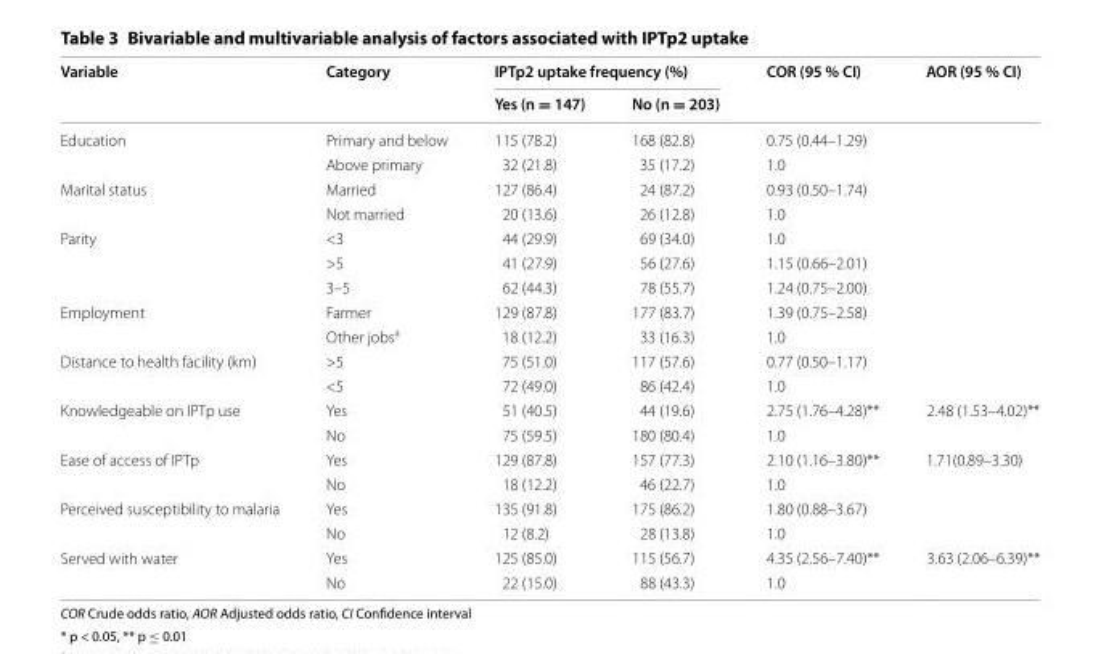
<table><thead><tr><td rowspan="2">Variable</td><td rowspan="2">Category</td><td colspan="2">IPTp2 uptake frequency (%)</td><td rowspan="2">COR (95 % CI)</td><td rowspan="2">AOR (95 % CI)</td></tr><tr><td>Yes (n = 147)</td><td>No (n = 203)</td></tr></thead><tbody><tr><td rowspan="2">Education</td><td>Primary and below</td><td>115 (78.2)</td><td>168 (82.8)</td><td>0.75 (0.44–1.29)</td><td></td></tr><tr><td>Above primary</td><td>32 (21.8)</td><td>35 (17.2)</td><td>1.0</td><td></td></tr><tr><td rowspan="2">Marital status</td><td>Married</td><td>127 (86.4)</td><td>24 (87.2)</td><td>0.93 (0.50–1.74)</td><td></td></tr><tr><td>Not married</td><td>20 (13.6)</td><td>26 (12.8)</td><td>1.0</td><td></td></tr><tr><td rowspan="3">Parity</td><td>&lt;3</td><td>44 (29.9)</td><td>69 (34.0)</td><td>1.0</td><td></td></tr><tr><td>&gt;5</td><td>41 (27.9)</td><td>56 (27.6)</td><td>1.15 (0.66–2.01)</td><td></td></tr><tr><td>3–5</td><td>62 (44.3)</td><td>78 (55.7)</td><td>1.24 (0.75–2.00)</td><td></td></tr><tr><td rowspan="2">Employment</td><td>Farmer</td><td>129 (87.8)</td><td>177 (83.7)</td><td>1.39 (0.75–2.58)</td><td></td></tr><tr><td>Other jobs<sup>a</sup></td><td>18 (12.2)</td><td>33 (16.3)</td><td>1.0</td><td></td></tr><tr><td rowspan="2">Distance to health facility (km)</td><td>&gt;5</td><td>75 (51.0)</td><td>117 (57.6)</td><td>0.77 (0.50–1.17)</td><td></td></tr><tr><td>&lt;5</td><td>72 (49.0)</td><td>86 (42.4)</td><td>1.0</td><td></td></tr><tr><td rowspan="2">Knowledgeable on IPTp use</td><td>Yes</td><td>51 (40.5)</td><td>44 (19.6)</td><td>2.75 (1.76–4.28)**</td><td>2.48 (1.53–4.02)**</td></tr><tr><td>No</td><td>75 (59.5)</td><td>180 (80.4)</td><td>1.0</td><td></td></tr><tr><td rowspan="2">Ease of access of IPTp</td><td>Yes</td><td>129 (87.8)</td><td>157 (77.3)</td><td>2.10 (1.16–3.80)**</td><td>1.71(0.89–3.30)</td></tr><tr><td>No</td><td>18 (12.2)</td><td>46 (22.7)</td><td>1.0</td><td></td></tr><tr><td rowspan="2">Perceived susceptibility to malaria</td><td>Yes</td><td>135 (91.8)</td><td>175 (86.2)</td><td>1.80 (0.88–3.67)</td><td></td></tr><tr><td>No</td><td>12 (8.2)</td><td>28 (13.8)</td><td>1.0</td><td></td></tr><tr><td rowspan="2">Served with water</td><td>Yes</td><td>125 (85.0)</td><td>115 (56.7)</td><td>4.35 (2.56–7.40)**</td><td>3.63 (2.06–6.39)**</td></tr><tr><td>No</td><td>22 (15.0)</td><td>88 (43.3)</td><td>1.0</td><td></td></tr></tbody></table>